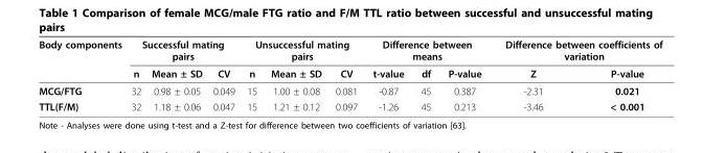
<table><thead><tr><td rowspan="2">Body components</td><td colspan="3">Successful mating pairs</td><td colspan="3">Unsuccessful mating pairs</td><td colspan="3">Difference between means</td><td colspan="2">Difference between coefficients of variation</td></tr><tr><td>n</td><td>Mean ± SD</td><td>CV</td><td>n</td><td>Mean ± SD</td><td>CV</td><td>t-value</td><td>df</td><td>P-value</td><td>Z</td><td>P-value</td></tr></thead><tbody><tr><td>MCG/FTG</td><td>32</td><td>0.98 ± 0.05</td><td>0.049</td><td>15</td><td>1.00 ± 0.08</td><td>0.081</td><td>-0.87</td><td>45</td><td>0.387</td><td>-2.31</td><td>0.021</td></tr><tr><td>TTL(F/M)</td><td>32</td><td>1.18 ± 0.06</td><td>0.047</td><td>15</td><td>1.21 ± 0.12</td><td>0.097</td><td>-1.26</td><td>45</td><td>0.213</td><td>-3.46</td><td>&lt; 0.001</td></tr></tbody></table>